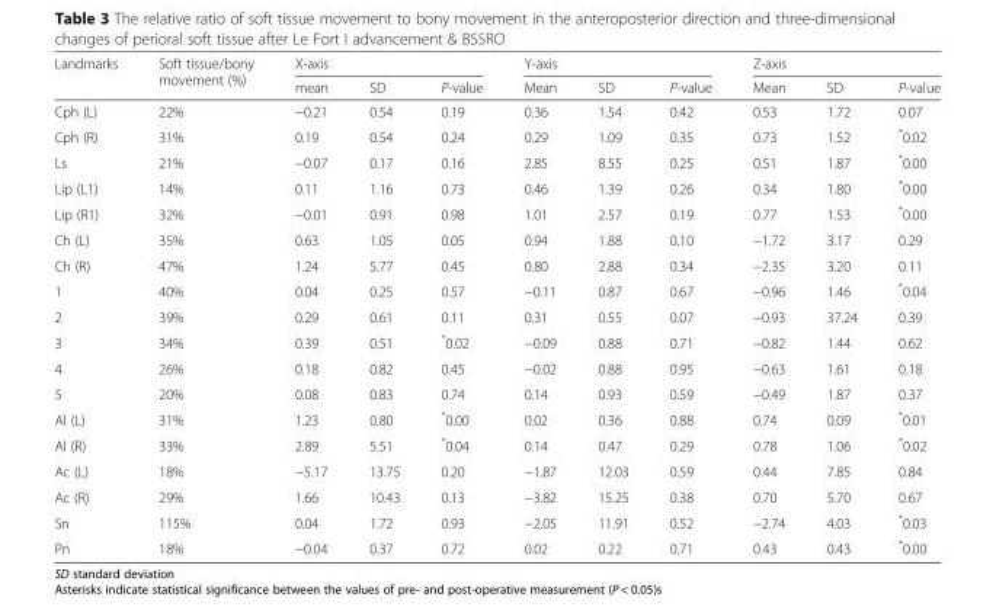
<table><thead><tr><td rowspan="2">Landmarks</td><td rowspan="2">Soft tissue/bony movement (%)</td><td colspan="3">X-axis</td><td colspan="3">Y-axis</td><td colspan="3">Z-axis</td></tr><tr><td>mean</td><td>SD</td><td>P-value</td><td>Mean</td><td>SD</td><td>P-value</td><td>Mean</td><td>SD</td><td>P-value</td></tr></thead><tbody><tr><td>Cph (L)</td><td>22%</td><td>−0.21</td><td>0.54</td><td>0.19</td><td>0.36</td><td>1.54</td><td>0.42</td><td>0.53</td><td>1.72</td><td>0.07</td></tr><tr><td>Cph (R)</td><td>31%</td><td>0.19</td><td>0.54</td><td>0.24</td><td>0.29</td><td>1.09</td><td>0.35</td><td>0.73</td><td>1.52</td><td>*0.02</td></tr><tr><td>Ls</td><td>21%</td><td>−0.07</td><td>0.17</td><td>0.16</td><td>2.85</td><td>8.55</td><td>0.25</td><td>0.51</td><td>1.87</td><td>*0.00</td></tr><tr><td>Lip (L1)</td><td>14%</td><td>0.11</td><td>1.16</td><td>0.73</td><td>0.46</td><td>1.39</td><td>0.26</td><td>0.34</td><td>1.80</td><td>*0.00</td></tr><tr><td>Lip (R1)</td><td>32%</td><td>−0.01</td><td>0.91</td><td>0.98</td><td>1.01</td><td>2.57</td><td>0.19</td><td>0.77</td><td>1.53</td><td>*0.00</td></tr><tr><td>Ch (L)</td><td>35%</td><td>0.63</td><td>1.05</td><td>0.05</td><td>0.94</td><td>1.88</td><td>0.10</td><td>−1.72</td><td>3.17</td><td>0.29</td></tr><tr><td>Ch (R)</td><td>47%</td><td>1.24</td><td>5.77</td><td>0.45</td><td>0.80</td><td>2.88</td><td>0.34</td><td>−2.35</td><td>3.20</td><td>0.11</td></tr><tr><td>1</td><td>40%</td><td>0.04</td><td>0.25</td><td>0.57</td><td>−0.11</td><td>0.87</td><td>0.67</td><td>−0.96</td><td>1.46</td><td>*0.04</td></tr><tr><td>2</td><td>39%</td><td>0.29</td><td>0.61</td><td>0.11</td><td>0.31</td><td>0.55</td><td>0.07</td><td>−0.93</td><td>37.24</td><td>0.39</td></tr><tr><td>3</td><td>34%</td><td>0.39</td><td>0.51</td><td>*0.02</td><td>−0.09</td><td>0.88</td><td>0.71</td><td>−0.82</td><td>1.44</td><td>0.62</td></tr><tr><td>4</td><td>26%</td><td>0.18</td><td>0.82</td><td>0.45</td><td>−0.02</td><td>0.88</td><td>0.95</td><td>−0.63</td><td>1.61</td><td>0.18</td></tr><tr><td>5</td><td>20%</td><td>0.08</td><td>0.83</td><td>0.74</td><td>0.14</td><td>0.93</td><td>0.59</td><td>−0.49</td><td>1.87</td><td>0.37</td></tr><tr><td>Al (L)</td><td>31%</td><td>1.23</td><td>0.80</td><td>*0.00</td><td>0.02</td><td>0.36</td><td>0.88</td><td>0.74</td><td>0.09</td><td>*0.01</td></tr><tr><td>Al (R)</td><td>33%</td><td>2.89</td><td>5.51</td><td>*0.04</td><td>0.14</td><td>0.47</td><td>0.29</td><td>0.78</td><td>1.06</td><td>*0.02</td></tr><tr><td>Ac (L)</td><td>18%</td><td>−5.17</td><td>13.75</td><td>0.20</td><td>−1.87</td><td>12.03</td><td>0.59</td><td>0.44</td><td>7.85</td><td>0.84</td></tr><tr><td>Ac (R)</td><td>29%</td><td>1.66</td><td>10.43</td><td>0.13</td><td>−3.82</td><td>15.25</td><td>0.38</td><td>0.70</td><td>5.70</td><td>0.67</td></tr><tr><td>Sn</td><td>115%</td><td>0.04</td><td>1.72</td><td>0.93</td><td>−2.05</td><td>11.91</td><td>0.52</td><td>−2.74</td><td>4.03</td><td>*0.03</td></tr><tr><td>Pn</td><td>18%</td><td>−0.04</td><td>0.37</td><td>0.72</td><td>0.02</td><td>0.22</td><td>0.71</td><td>0.43</td><td>0.43</td><td>*0.00</td></tr></tbody></table>